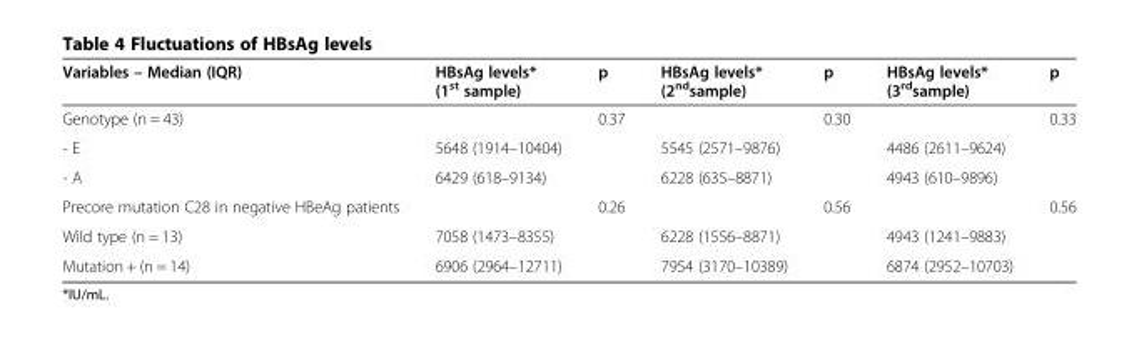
<table><thead><tr><td>Variables – Median (IQR)</td><td>HBsAg levels* (1<sup>st</sup> sample)</td><td>p</td><td>HBsAg levels* (2<sup>nd</sup>sample)</td><td>p</td><td>HBsAg levels* (3<sup>rd</sup>sample)</td><td>p</td></tr></thead><tbody><tr><td>Genotype (n = 43)</td><td></td><td>0.37</td><td></td><td>0.30</td><td></td><td>0.33</td></tr><tr><td>- E</td><td>5648 (1914–10404)</td><td></td><td>5545 (2571–9876)</td><td></td><td>4486 (2611–9624)</td><td></td></tr><tr><td>- A</td><td>6429 (618–9134)</td><td></td><td>6228 (635–8871)</td><td></td><td>4943 (610–9896)</td><td></td></tr><tr><td>Precore mutation C28 in negative HBeAg patients</td><td></td><td>0.26</td><td></td><td>0.56</td><td></td><td>0.56</td></tr><tr><td>Wild type (n = 13)</td><td>7058 (1473–8355)</td><td></td><td>6228 (1556–8871)</td><td></td><td>4943 (1241–9883)</td><td></td></tr><tr><td>Mutation + (n = 14)</td><td>6906 (2964–12711)</td><td></td><td>7954 (3170–10389)</td><td></td><td>6874 (2952–10703)</td><td></td></tr></tbody></table>